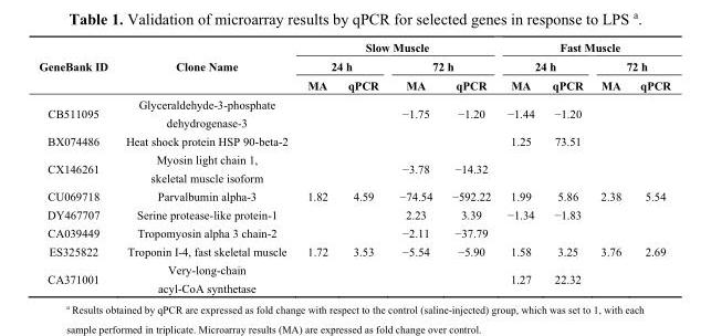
<table><thead><tr><td rowspan="3">GeneBank ID</td><td rowspan="3">Clone Name</td><td colspan="4">Slow Muscle</td><td colspan="4">Fast Muscle</td></tr><tr><td colspan="2">24 h</td><td colspan="2">72 h</td><td colspan="2">24 h</td><td colspan="2">72 h</td></tr><tr><td>MA</td><td>qPCR</td><td>MA</td><td>qPCR</td><td>MA</td><td>qPCR</td><td>MA</td><td>qPCR</td></tr></thead><tbody><tr><td>CB511095</td><td>Glyceraldehyde-3-phosphate dehydrogenase-3</td><td></td><td></td><td>−1.75</td><td>−1.20</td><td>−1.44</td><td>−1.20</td><td></td><td></td></tr><tr><td>BX074486</td><td>Heat shock protein HSP 90-beta-2</td><td></td><td></td><td></td><td></td><td>1.25</td><td>73.51</td><td></td><td></td></tr><tr><td>CX146261</td><td>Myosin light chain 1, skeletal muscle isoform</td><td></td><td></td><td>−3.78</td><td>−14.32</td><td></td><td></td><td></td><td></td></tr><tr><td>CU069718</td><td>Parvalbumin alpha-3</td><td>1.82</td><td>4.59</td><td>−74.54</td><td>−592.22</td><td>1.99</td><td>5.86</td><td>2.38</td><td>5.54</td></tr><tr><td>DY467707</td><td>Serine protease-like protein-1</td><td></td><td></td><td>2.23</td><td>3.39</td><td>−1.34</td><td>−1.83</td><td></td><td></td></tr><tr><td>CA039449</td><td>Tropomyosin alpha 3 chain-2</td><td></td><td></td><td>−2.11</td><td>−37.79</td><td></td><td></td><td></td><td></td></tr><tr><td>ES325822</td><td>Troponin I-4, fast skeletal muscle</td><td>1.72</td><td>3.53</td><td>−5.54</td><td>−5.90</td><td>1.58</td><td>3.25</td><td>3.76</td><td>2.69</td></tr><tr><td>CA371001</td><td>Very-long-chain acyl-CoA synthetase</td><td></td><td></td><td></td><td></td><td>1.27</td><td>22.32</td><td></td><td></td></tr></tbody></table>